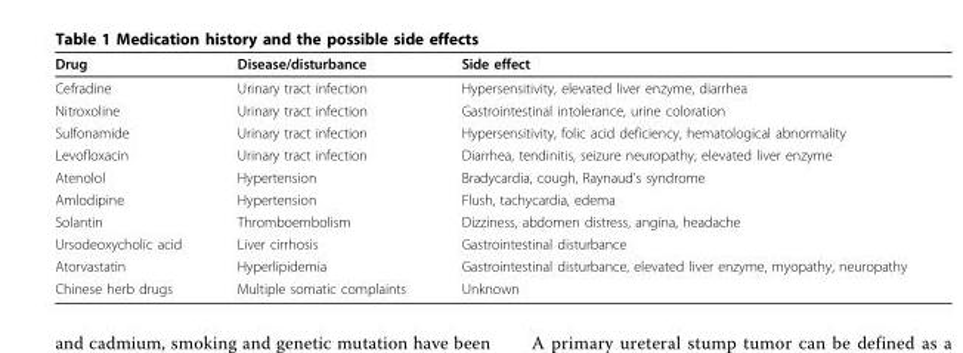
<table><thead><tr><td>Drug</td><td>Disease/disturbance</td><td>Side effect</td></tr></thead><tbody><tr><td>Cefradine</td><td>Urinary tract infection</td><td>Hypersensitivity, elevated liver enzyme, diarrhea</td></tr><tr><td>Nitroxoline</td><td>Urinary tract infection</td><td>Gastrointestinal intolerance, urine coloration</td></tr><tr><td>Sulfonamide</td><td>Urinary tract infection</td><td>Hypersensitivity, folic acid deficiency, hematological abnormality</td></tr><tr><td>Levofloxacin</td><td>Urinary tract infection</td><td>Diarrhea, tendinitis, seizure neuropathy, elevated liver enzyme</td></tr><tr><td>Atenolol</td><td>Hypertension</td><td>Bradycardia, cough, Raynaud’s syndrome</td></tr><tr><td>Amlodipine</td><td>Hypertension</td><td>Flush, tachycardia, edema</td></tr><tr><td>Solantin</td><td>Thromboembolism</td><td>Dizziness, abdomen distress, angina, headache</td></tr><tr><td>Ursodeoxycholic acid</td><td>Liver cirrhosis</td><td>Gastrointestinal disturbance</td></tr><tr><td>Atorvastatin</td><td>Hyperlipidemia</td><td>Gastrointestinal disturbance, elevated liver enzyme, myopathy, neuropathy</td></tr><tr><td>Chinese herb drugs</td><td>Multiple somatic complaints</td><td>Unknown</td></tr></tbody></table>